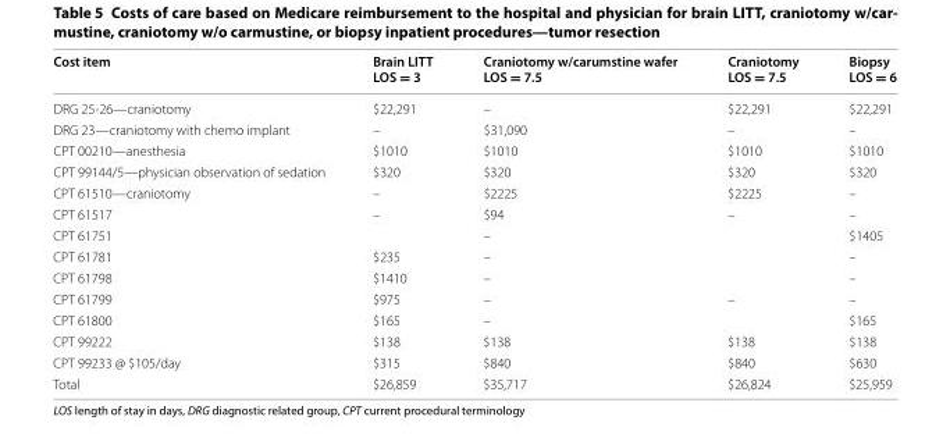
<table><thead><tr><td>Cost item</td><td>Brain LITT LOS = 3</td><td>Craniotomy w/carumstine wafer LOS = 7.5</td><td>Craniotomy LOS = 7.5</td><td>Biopsy LOS = 6</td></tr></thead><tbody><tr><td>DRG 25-26—craniotomy</td><td>$22,291</td><td>–</td><td>$22,291</td><td>$22,291</td></tr><tr><td>DRG 23—craniotomy with chemo implant</td><td>–</td><td>$31,090</td><td>–</td><td>–</td></tr><tr><td>CPT 00210—anesthesia</td><td>$1010</td><td>$1010</td><td>$1010</td><td>$1010</td></tr><tr><td>CPT 99144/5—physician observation of sedation</td><td>$320</td><td>$320</td><td>$320</td><td>$320</td></tr><tr><td>CPT 61510—craniotomy</td><td>–</td><td>$2225</td><td>$2225</td><td>–</td></tr><tr><td>CPT 61517</td><td>–</td><td>$94</td><td>–</td><td>–</td></tr><tr><td>CPT 61751</td><td></td><td>–</td><td></td><td>$1405</td></tr><tr><td>CPT 61781</td><td>$235</td><td>–</td><td></td><td>–</td></tr><tr><td>CPT 61798</td><td>$1410</td><td>–</td><td></td><td>–</td></tr><tr><td>CPT 61799</td><td>$975</td><td>–</td><td>–</td><td>–</td></tr><tr><td>CPT 61800</td><td>$165</td><td>–</td><td></td><td>$165</td></tr><tr><td>CPT 99222</td><td>$138</td><td>$138</td><td>$138</td><td>$138</td></tr><tr><td>CPT 99233 @ $105/day</td><td>$315</td><td>$840</td><td>$840</td><td>$630</td></tr><tr><td>Total</td><td>$26,859</td><td>$35,717</td><td>$26,824</td><td>$25,959</td></tr></tbody></table>